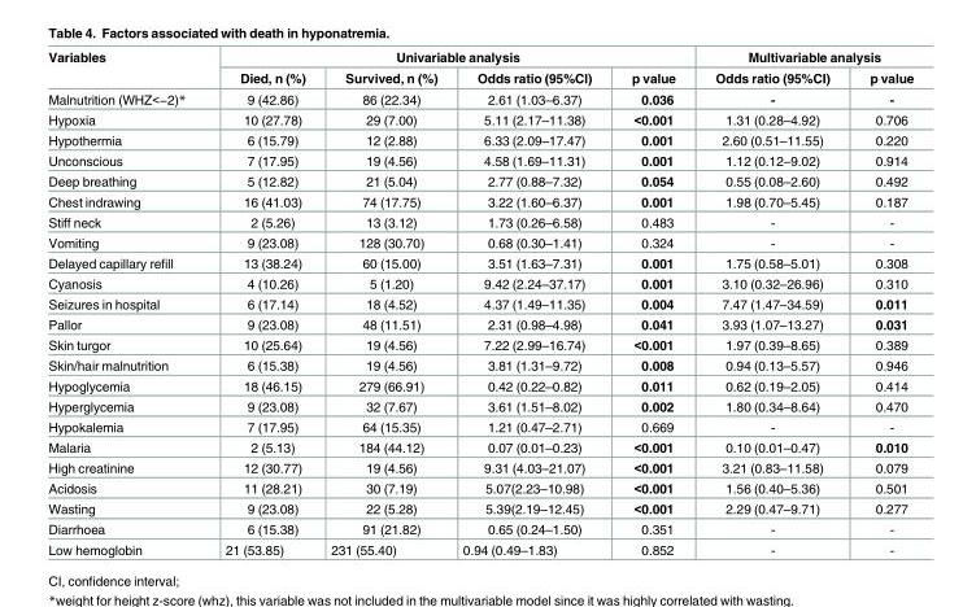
<table><thead><tr><td rowspan="2">Variables</td><td colspan="4">Univariable analysis</td><td colspan="2">Multivariable analysis</td></tr><tr><td>Died, n (%)</td><td>Survived, n (%)</td><td>Odds ratio (95%CI)</td><td>p value</td><td>Odds ratio (95%CI)</td><td>p value</td></tr></thead><tbody><tr><td>Malnutrition (WHZ&lt;−2)*</td><td>9 (42.86)</td><td>86 (22.34)</td><td>2.61 (1.03–6.37)</td><td>0.036</td><td>-</td><td>-</td></tr><tr><td>Hypoxia</td><td>10 (27.78)</td><td>29 (7.00)</td><td>5.11 (2.17–11.38)</td><td>&lt;0.001</td><td>1.31 (0.28–4.92)</td><td>0.706</td></tr><tr><td>Hypothermia</td><td>6 (15.79)</td><td>12 (2.88)</td><td>6.33 (2.09–17.47)</td><td>0.001</td><td>2.60 (0.51–11.55)</td><td>0.220</td></tr><tr><td>Unconscious</td><td>7 (17.95)</td><td>19 (4.56)</td><td>4.58 (1.69–11.31)</td><td>0.001</td><td>1.12 (0.12–9.02)</td><td>0.914</td></tr><tr><td>Deep breathing</td><td>5 (12.82)</td><td>21 (5.04)</td><td>2.77 (0.88–7.32)</td><td>0.054</td><td>0.55 (0.08–2.60)</td><td>0.492</td></tr><tr><td>Chest indrawing</td><td>16 (41.03)</td><td>74 (17.75)</td><td>3.22 (1.60–6.37)</td><td>0.001</td><td>1.98 (0.70–5.45)</td><td>0.187</td></tr><tr><td>Stiff neck</td><td>2 (5.26)</td><td>13 (3.12)</td><td>1.73 (0.26–6.58)</td><td>0.483</td><td>-</td><td>-</td></tr><tr><td>Vomiting</td><td>9 (23.08)</td><td>128 (30.70)</td><td>0.68 (0.30–1.41)</td><td>0.324</td><td>-</td><td>-</td></tr><tr><td>Delayed capillary refill</td><td>13 (38.24)</td><td>60 (15.00)</td><td>3.51 (1.63–7.31)</td><td>0.001</td><td>1.75 (0.58–5.01)</td><td>0.308</td></tr><tr><td>Cyanosis</td><td>4 (10.26)</td><td>5 (1.20)</td><td>9.42 (2.24–37.17)</td><td>0.001</td><td>3.10 (0.32–26.96)</td><td>0.310</td></tr><tr><td>Seizures in hospital</td><td>6 (17.14)</td><td>18 (4.52)</td><td>4.37 (1.49–11.35)</td><td>0.004</td><td>7.47 (1.47–34.59)</td><td>0.011</td></tr><tr><td>Pallor</td><td>9 (23.08)</td><td>48 (11.51)</td><td>2.31 (0.98–4.98)</td><td>0.041</td><td>3.93 (1.07–13.27)</td><td>0.031</td></tr><tr><td>Skin turgor</td><td>10 (25.64)</td><td>19 (4.56)</td><td>7.22 (2.99–16.74)</td><td>&lt;0.001</td><td>1.97 (0.39–8.65)</td><td>0.389</td></tr><tr><td>Skin/hair malnutrition</td><td>6 (15.38)</td><td>19 (4.56)</td><td>3.81 (1.31–9.72)</td><td>0.008</td><td>0.94 (0.13–5.57)</td><td>0.946</td></tr><tr><td>Hypoglycemia</td><td>18 (46.15)</td><td>279 (66.91)</td><td>0.42 (0.22–0.82)</td><td>0.011</td><td>0.62 (0.19–2.05)</td><td>0.414</td></tr><tr><td>Hyperglycemia</td><td>9 (23.08)</td><td>32 (7.67)</td><td>3.61 (1.51–8.02)</td><td>0.002</td><td>1.80 (0.34–8.64)</td><td>0.470</td></tr><tr><td>Hypokalemia</td><td>7 (17.95)</td><td>64 (15.35)</td><td>1.21 (0.47–2.71)</td><td>0.669</td><td>-</td><td>-</td></tr><tr><td>Malaria</td><td>2 (5.13)</td><td>184 (44.12)</td><td>0.07 (0.01–0.23)</td><td>&lt;0.001</td><td>0.10 (0.01–0.47)</td><td>0.010</td></tr><tr><td>High creatinine</td><td>12 (30.77)</td><td>19 (4.56)</td><td>9.31 (4.03–21.07)</td><td>&lt;0.001</td><td>3.21 (0.83–11.58)</td><td>0.079</td></tr><tr><td>Acidosis</td><td>11 (28.21)</td><td>30 (7.19)</td><td>5.07(2.23–10.98)</td><td>&lt;0.001</td><td>1.56 (0.40–5.36)</td><td>0.501</td></tr><tr><td>Wasting</td><td>9 (23.08)</td><td>22 (5.28)</td><td>5.39(2.19–12.45)</td><td>&lt;0.001</td><td>2.29 (0.47–9.71)</td><td>0.277</td></tr><tr><td>Diarrhoea</td><td>6 (15.38)</td><td>91 (21.82)</td><td>0.65 (0.24–1.50)</td><td>0.351</td><td>-</td><td>-</td></tr><tr><td>Low hemoglobin</td><td>21 (53.85)</td><td>231 (55.40)</td><td>0.94 (0.49–1.83)</td><td>0.852</td><td>-</td><td>-</td></tr></tbody></table>